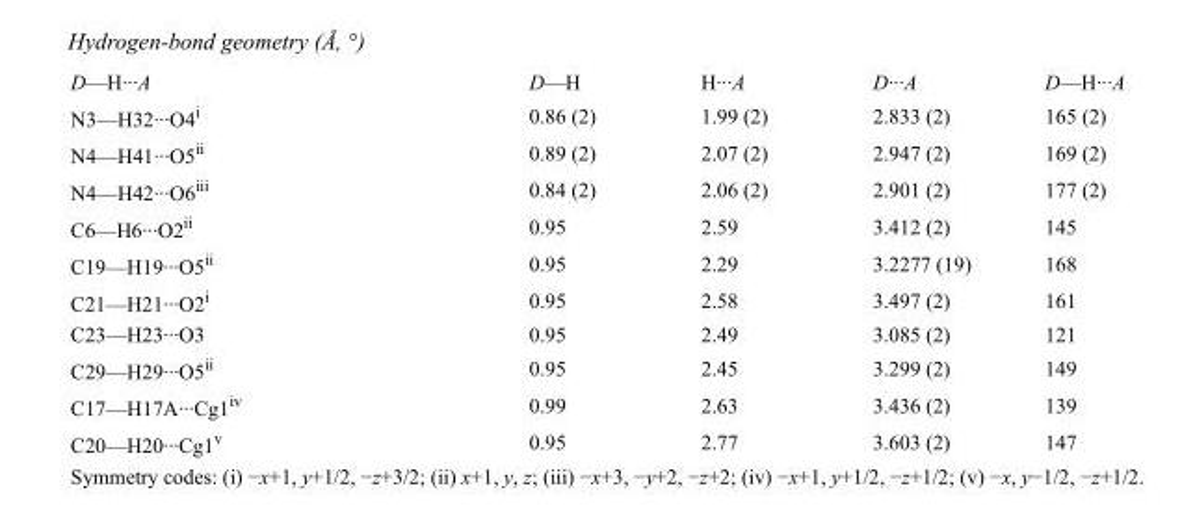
<table><tbody><tr><td>D—H···A</td><td>D—H</td><td>H···A</td><td>D···A</td><td>D—H···A</td></tr><tr><td>N3—H32···O4<sup>i</sup></td><td>0.86 (2)</td><td>1.99 (2)</td><td>2.833 (2)</td><td>165 (2)</td></tr><tr><td>N4—H41···O5<sup>ii</sup></td><td>0.89 (2)</td><td>2.07 (2)</td><td>2.947 (2)</td><td>169 (2)</td></tr><tr><td>N4—H42···O6<sup>iii</sup></td><td>0.84 (2)</td><td>2.06 (2)</td><td>2.901 (2)</td><td>177 (2)</td></tr><tr><td>C6—H6···O2<sup>ii</sup></td><td>0.95</td><td>2.59</td><td>3.412 (2)</td><td>145</td></tr><tr><td>C19—H19···O5<sup>ii</sup></td><td>0.95</td><td>2.29</td><td>3.2277 (19)</td><td>168</td></tr><tr><td>C21—H21···O2<sup>i</sup></td><td>0.95</td><td>2.58</td><td>3.497 (2)</td><td>161</td></tr><tr><td>C23—H23···O3</td><td>0.95</td><td>2.49</td><td>3.085 (2)</td><td>121</td></tr><tr><td>C29—H29···O5<sup>ii</sup></td><td>0.95</td><td>2.45</td><td>3.299 (2)</td><td>149</td></tr><tr><td>C17—H17A···Cg1<sup>iv</sup></td><td>0.99</td><td>2.63</td><td>3.436 (2)</td><td>139</td></tr><tr><td>C20—H20···Cg1<sup>v</sup></td><td>0.95</td><td>2.77</td><td>3.603 (2)</td><td>147</td></tr></tbody></table>